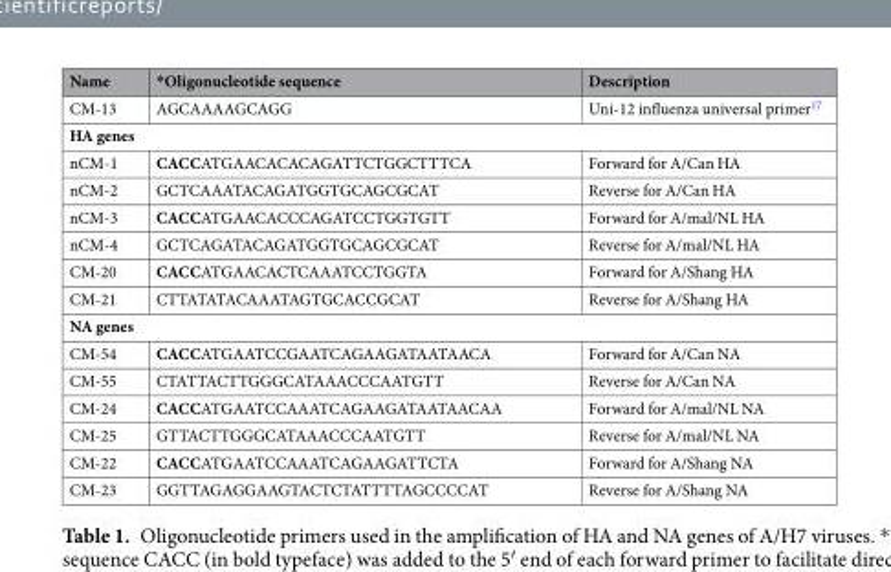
<table><thead><tr><td>Name</td><td>*Oligonucleotide sequence</td><td>Description</td></tr></thead><tbody><tr><td>CM-13</td><td>AGCAAAAGCAGG</td><td>Uni-12 influenza universal primer<sup>17</sup></td></tr><tr><td colspan="3">HA genes</td></tr><tr><td>nCM-1</td><td>CACCATGAACACACAGATTCTGGCTTTCA</td><td>Forward for A/Can HA</td></tr><tr><td>nCM-2</td><td>GCTCAAATACAGATGGTGCAGCGCAT</td><td>Reverse for A/Can HA</td></tr><tr><td>nCM-3</td><td>CACCATGAACACCCAGATCCTGGTGTT</td><td>Forward for A/mal/NL HA</td></tr><tr><td>nCM-4</td><td>GCTCAGATACAGATGGTGCAGCGCAT</td><td>Reverse for A/mal/NL HA</td></tr><tr><td>CM-20</td><td>CACCATGAACACTCAAATCCTGGTA</td><td>Forward for A/Shang HA</td></tr><tr><td>CM-21</td><td>CTTATATACAAATAGTGCACCGCAT</td><td>Reverse for A/Shang HA</td></tr><tr><td colspan="3">NA genes</td></tr><tr><td>CM-54</td><td>CACCATGAATCCGAATCAGAAGATAATAACA</td><td>Forward for A/Can NA</td></tr><tr><td>CM-55</td><td>CTATTACTTGGGCATAAACCCAATGTT</td><td>Reverse for A/Can NA</td></tr><tr><td>CM-24</td><td>CACCATGAATCCAAATCAGAAGATAATAACAA</td><td>Forward for A/mal/NL NA</td></tr><tr><td>CM-25</td><td>GTTACTTGGGCATAAACCCAATGTT</td><td>Reverse for A/mal/NL NA</td></tr><tr><td>CM-22</td><td>CACCATGAATCCAAATCAGAAGATTCTA</td><td>Forward for A/Shang NA</td></tr><tr><td>CM-23</td><td>GGTTAGAGGAAGTACTCTATTTTAGCCCCAT</td><td>Reverse for A/Shang NA</td></tr></tbody></table>